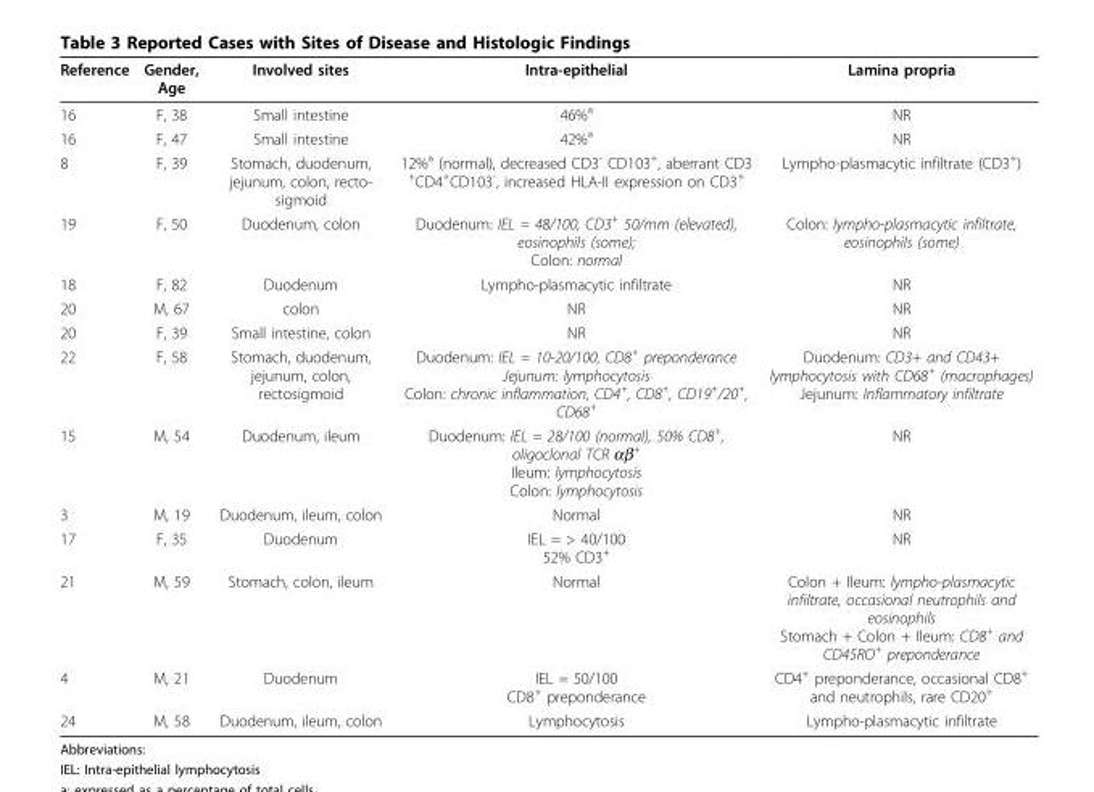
<table><thead><tr><td>Reference</td><td>Gender, Age</td><td>Involved sites</td><td>Intra-epithelial</td><td>Lamina propria</td></tr></thead><tbody><tr><td>16</td><td>F, 38</td><td>Small intestine</td><td>46%<sup>a</sup></td><td>NR</td></tr><tr><td>16</td><td>F, 47</td><td>Small intestine</td><td>42%<sup>a</sup></td><td>NR</td></tr><tr><td>8</td><td>F, 39</td><td>Stomach, duodenum, jejunum, colon, recto- sigmoid</td><td>12%<sup>a</sup> (normal), decreased CD3<sup>-</sup> CD103<sup>+</sup>, aberrant CD3 <sup>+</sup>CD4<sup>+</sup>CD103<sup>-</sup>, increased HLA-II expression on CD3<sup>+</sup></td><td>Lympho-plasmacytic infiltrate (CD3<sup>+</sup>)</td></tr><tr><td>19</td><td>F, 50</td><td>Duodenum, colon</td><td>Duodenum: IEL = 48/100, CD3<sup>+</sup> 50/mm (elevated), eosinophils (some); Colon: normal</td><td>Colon: lympho-plasmacytic infiltrate, eosinophils (some)</td></tr><tr><td>18</td><td>F, 82</td><td>Duodenum</td><td>Lympho-plasmacytic infiltrate</td><td>NR</td></tr><tr><td>20</td><td>M, 67</td><td>colon</td><td>NR</td><td>NR</td></tr><tr><td>20</td><td>F, 39</td><td>Small intestine, colon</td><td>NR</td><td>NR</td></tr><tr><td>22</td><td>F, 58</td><td>Stomach, duodenum, jejunum, colon, rectosigmoid</td><td>Duodenum: IEL = 10-20/100, CD8<sup>+</sup> preponderance Jejunum: lymphocytosis Colon: chronic inflammation, CD4<sup>+</sup>, CD8<sup>+</sup>, CD19<sup>+</sup>/20<sup>+</sup>, CD68<sup>+</sup></td><td>Duodenum: CD3+ and CD43+ lymphocytosis with CD68<sup>+</sup> (macrophages) Jejunum: Inflammatory infiltrate</td></tr><tr><td>15</td><td>M, 54</td><td>Duodenum, ileum</td><td>Duodenum: IEL = 28/100 (normal), 50% CD8<sup>+</sup>, oligoclonal TCR αβ<sup>+</sup> Ileum: lymphocytosis Colon: lymphocytosis</td><td>NR</td></tr><tr><td>3</td><td>M, 19</td><td>Duodenum, ileum, colon</td><td>Normal</td><td>NR</td></tr><tr><td>17</td><td>F, 35</td><td>Duodenum</td><td>IEL = &gt; 40/100 52% CD3<sup>+</sup></td><td>NR</td></tr><tr><td>21</td><td>M, 59</td><td>Stomach, colon, ileum</td><td>Normal</td><td>Colon + Ileum: lympho-plasmacytic infiltrate, occasional neutrophils and eosinophils Stomach + Colon + Ileum: CD8<sup>+</sup> and CD45RO<sup>+</sup> preponderance</td></tr><tr><td>4</td><td>M, 21</td><td>Duodenum</td><td>IEL = 50/100 CD8<sup>+</sup> preponderance</td><td>CD4<sup>+</sup> preponderance, occasional CD8<sup>+</sup> and neutrophils, rare CD20<sup>+</sup></td></tr><tr><td>24</td><td>M, 58</td><td>Duodenum, ileum, colon</td><td>Lymphocytosis</td><td>Lympho-plasmacytic infiltrate</td></tr></tbody></table>